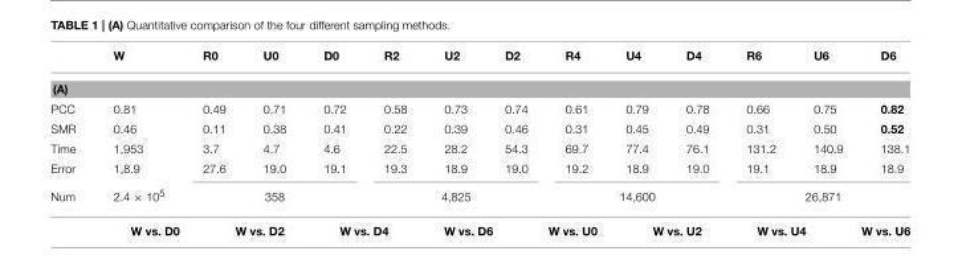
<table><thead><tr><td></td><td>W</td><td>R0</td><td>U0</td><td>D0</td><td>R2</td><td>U2</td><td>D2</td><td>R4</td><td>U4</td><td>D4</td><td>R6</td><td>U6</td><td>D6</td></tr></thead><tbody><tr><td colspan="14">(A)</td></tr><tr><td>PCC</td><td>0.81</td><td>0.49</td><td>0.71</td><td>0.72</td><td>0.58</td><td>0.73</td><td>0.74</td><td>0.61</td><td>0.79</td><td>0.78</td><td>0.66</td><td>0.75</td><td>0.82</td></tr><tr><td>SMR</td><td>0.46</td><td>0.11</td><td>0.38</td><td>0.41</td><td>0.22</td><td>0.39</td><td>0.46</td><td>0.31</td><td>0.45</td><td>0.49</td><td>0.31</td><td>0.50</td><td>0.52</td></tr><tr><td>Time</td><td>1,953</td><td>3.7</td><td>4.7</td><td>4.6</td><td>22.5</td><td>28.2</td><td>54.3</td><td>69.7</td><td>77.4</td><td>76.1</td><td>131.2</td><td>140.9</td><td>138.1</td></tr><tr><td>Error</td><td>1,8.9</td><td>27.6</td><td>19.0</td><td>19.1</td><td>19.3</td><td>18.9</td><td>19.0</td><td>19.2</td><td>18.9</td><td>19.0</td><td>19.1</td><td>18.9</td><td>18.9</td></tr><tr><td>Num</td><td>2.4 × 10<sup>5</sup></td><td colspan="3">358</td><td colspan="3">4,825</td><td colspan="3">14,600</td><td colspan="3">26,871</td></tr></tbody></table>